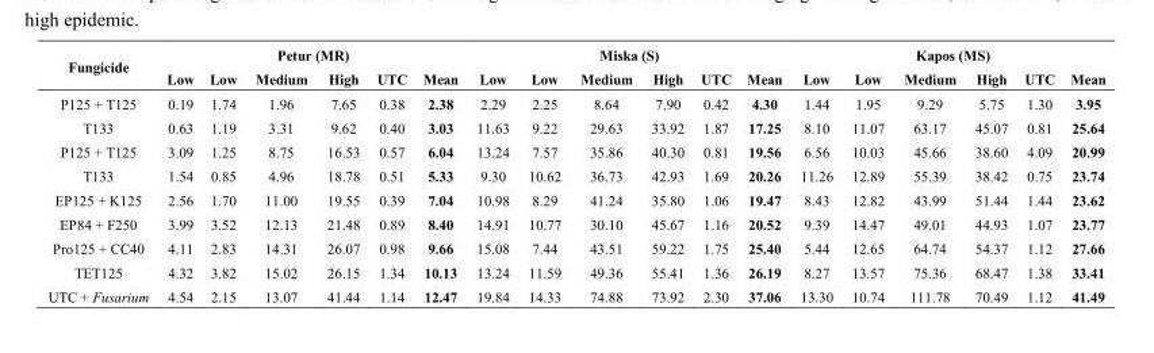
<table><thead><tr><td rowspan="2">Fungicide</td><td colspan="6">Petur (MR)</td><td colspan="6">Miska (S)</td><td colspan="6">Kapos (MS)</td></tr><tr><td>Low</td><td>Low</td><td>Medium</td><td>High</td><td>UTC</td><td>Mean</td><td>Low</td><td>Low</td><td>Medium</td><td>High</td><td>UTC</td><td>Mean</td><td>Low</td><td>Low</td><td>Medium</td><td>High</td><td>UTC</td><td>Mean</td></tr></thead><tbody><tr><td>P125 + T125</td><td>0.19</td><td>1.74</td><td>1.96</td><td>7.65</td><td>0.38</td><td>2.38</td><td>2.29</td><td>2.25</td><td>8.64</td><td>7.90</td><td>0.42</td><td>4.30</td><td>1.44</td><td>1.95</td><td>9.29</td><td>5.75</td><td>1.30</td><td>3.95</td></tr><tr><td>T133</td><td>0.63</td><td>1.19</td><td>3.31</td><td>9.62</td><td>0.40</td><td>3.03</td><td>11.63</td><td>9.22</td><td>29.63</td><td>33.92</td><td>1.87</td><td>17.25</td><td>8.10</td><td>11.07</td><td>63.17</td><td>45.07</td><td>0.81</td><td>25.64</td></tr><tr><td>P125 + T125</td><td>3.09</td><td>1.25</td><td>8.75</td><td>16.53</td><td>0.57</td><td>6.04</td><td>13.24</td><td>7.57</td><td>35.86</td><td>40.30</td><td>0.81</td><td>19.56</td><td>6.56</td><td>10.03</td><td>45.66</td><td>38.60</td><td>4.09</td><td>20.99</td></tr><tr><td>T133</td><td>1.54</td><td>0.85</td><td>4.96</td><td>18.78</td><td>0.51</td><td>5.33</td><td>9.30</td><td>10.62</td><td>36.73</td><td>42.93</td><td>1.69</td><td>20.26</td><td>11.26</td><td>12.89</td><td>55.39</td><td>38.42</td><td>0.75</td><td>23.74</td></tr><tr><td>EP125 + K125</td><td>2.56</td><td>1.70</td><td>11.00</td><td>19.55</td><td>0.39</td><td>7.04</td><td>10.98</td><td>8.29</td><td>41.24</td><td>35.80</td><td>1.06</td><td>19.47</td><td>8.43</td><td>12.82</td><td>43.99</td><td>51.44</td><td>1.44</td><td>23.62</td></tr><tr><td>EP84 + F250</td><td>3.99</td><td>3.52</td><td>12.13</td><td>21.48</td><td>0.89</td><td>8.40</td><td>14.91</td><td>10.77</td><td>30.10</td><td>45.67</td><td>1.16</td><td>20.52</td><td>9.39</td><td>14.47</td><td>49.01</td><td>44.93</td><td>1.07</td><td>23.77</td></tr><tr><td>Pro125 + CC40</td><td>4.11</td><td>2.83</td><td>14.31</td><td>26.07</td><td>0.98</td><td>9.66</td><td>15.08</td><td>7.44</td><td>43.51</td><td>59.22</td><td>1.75</td><td>25.40</td><td>5.44</td><td>12.65</td><td>64.74</td><td>54.37</td><td>1.12</td><td>27.66</td></tr><tr><td>TET125</td><td>4.32</td><td>3.82</td><td>15.02</td><td>26.15</td><td>1.34</td><td>10.13</td><td>13.24</td><td>11.59</td><td>49.36</td><td>55.41</td><td>1.36</td><td>26.19</td><td>8.27</td><td>13.57</td><td>75.36</td><td>68.47</td><td>1.38</td><td>33.41</td></tr><tr><td>UTC + Fusarium</td><td>4.54</td><td>2.15</td><td>13.07</td><td>41.44</td><td>1.14</td><td>12.47</td><td>19.84</td><td>14.33</td><td>74.88</td><td>73.92</td><td>2.30</td><td>37.06</td><td>13.30</td><td>10.74</td><td>111.78</td><td>70.49</td><td>1.12</td><td>41.49</td></tr></tbody></table>